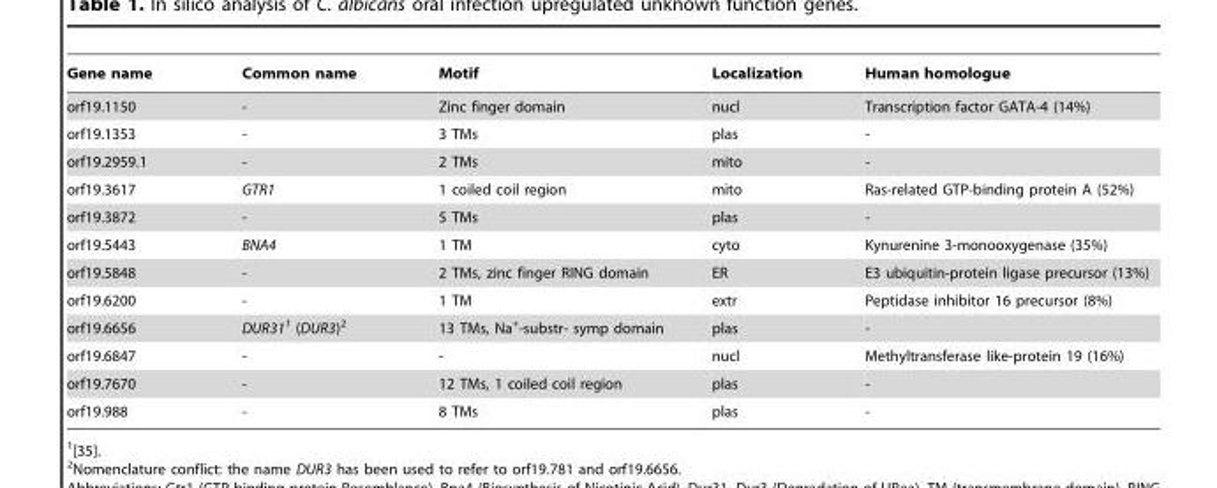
<table><thead><tr><td>Gene name</td><td>Common name</td><td>Motif</td><td>Localization</td><td>Human homologue</td></tr></thead><tbody><tr><td>orf19.1150</td><td>-</td><td>Zinc finger domain</td><td>nucl</td><td>Transcription factor GATA-4 (14%)</td></tr><tr><td>orf19.1353</td><td>-</td><td>3 TMs</td><td>plas</td><td>-</td></tr><tr><td>orf19.2959.1</td><td>-</td><td>2 TMs</td><td>mito</td><td>-</td></tr><tr><td>orf19.3617</td><td>GTR1</td><td>1 coiled coil region</td><td>mito</td><td>Ras-related GTP-binding protein A (52%)</td></tr><tr><td>orf19.3872</td><td>-</td><td>5 TMs</td><td>plas</td><td>-</td></tr><tr><td>orf19.5443</td><td>BNA4</td><td>1 TM</td><td>cyto</td><td>Kynurenine 3-monooxygenase (35%)</td></tr><tr><td>orf19.5848</td><td>-</td><td>2 TMs, zinc finger RING domain</td><td>ER</td><td>E3 ubiquitin-protein ligase precursor (13%)</td></tr><tr><td>orf19.6200</td><td>-</td><td>1 TM</td><td>extr</td><td>Peptidase inhibitor 16 precursor (8%)</td></tr><tr><td>orf19.6656</td><td>DUR311 (DUR3)<sup>2</sup></td><td>13 TMs, Na<sup>+</sup>-substr- symp domain</td><td>plas</td><td>-</td></tr><tr><td>orf19.6847</td><td>-</td><td>-</td><td>nucl</td><td>Methyltransferase like-protein 19 (16%)</td></tr><tr><td>orf19.7670</td><td>-</td><td>12 TMs, 1 coiled coil region</td><td>plas</td><td>-</td></tr><tr><td>orf19.988</td><td>-</td><td>8 TMs</td><td>plas</td><td>-</td></tr></tbody></table>